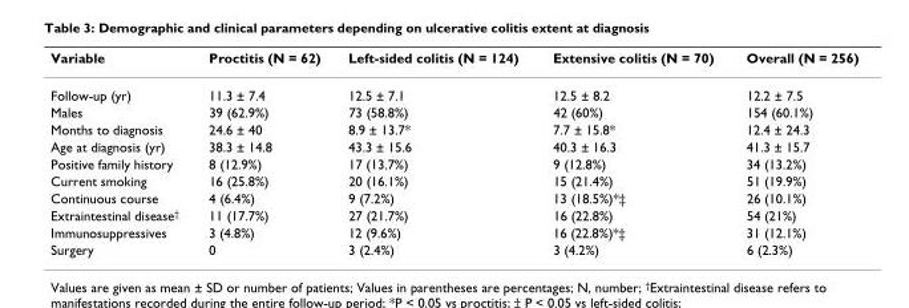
<table><thead><tr><td>Variable</td><td>Proctitis (N = 62)</td><td>Left-sided colitis (N = 124)</td><td>Extensive colitis (N = 70)</td><td>Overall (N = 256)</td></tr></thead><tbody><tr><td>Follow-up (yr)</td><td>11.3 ± 7.4</td><td>12.5 ± 7.1</td><td>12.5 ± 8.2</td><td>12.2 ± 7.5</td></tr><tr><td>Males</td><td>39 (62.9%)</td><td>73 (58.8%)</td><td>42 (60%)</td><td>154 (60.1%)</td></tr><tr><td>Months to diagnosis</td><td>24.6 ± 40</td><td>8.9 ± 13.7*</td><td>7.7 ± 15.8*</td><td>12.4 ± 24.3</td></tr><tr><td>Age at diagnosis (yr)</td><td>38.3 ± 14.8</td><td>43.3 ± 15.6</td><td>40.3 ± 16.3</td><td>41.3 ± 15.7</td></tr><tr><td>Positive family history</td><td>8 (12.9%)</td><td>17 (13.7%)</td><td>9 (12.8%)</td><td>34 (13.2%)</td></tr><tr><td>Current smoking</td><td>16 (25.8%)</td><td>20 (16.1%)</td><td>15 (21.4%)</td><td>51 (19.9%)</td></tr><tr><td>Continuous course</td><td>4 (6.4%)</td><td>9 (7.2%)</td><td>13 (18.5%)*‡</td><td>26 (10.1%)</td></tr><tr><td>Extraintestinal disease†</td><td>11 (17.7%)</td><td>27 (21.7%)</td><td>16 (22.8%)</td><td>54 (21%)</td></tr><tr><td>Immunosuppressives</td><td>3 (4.8%)</td><td>12 (9.6%)</td><td>16 (22.8%)*‡</td><td>31 (12.1%)</td></tr><tr><td>Surgery</td><td>0</td><td>3 (2.4%)</td><td>3 (4.2%)</td><td>6 (2.3%)</td></tr></tbody></table>